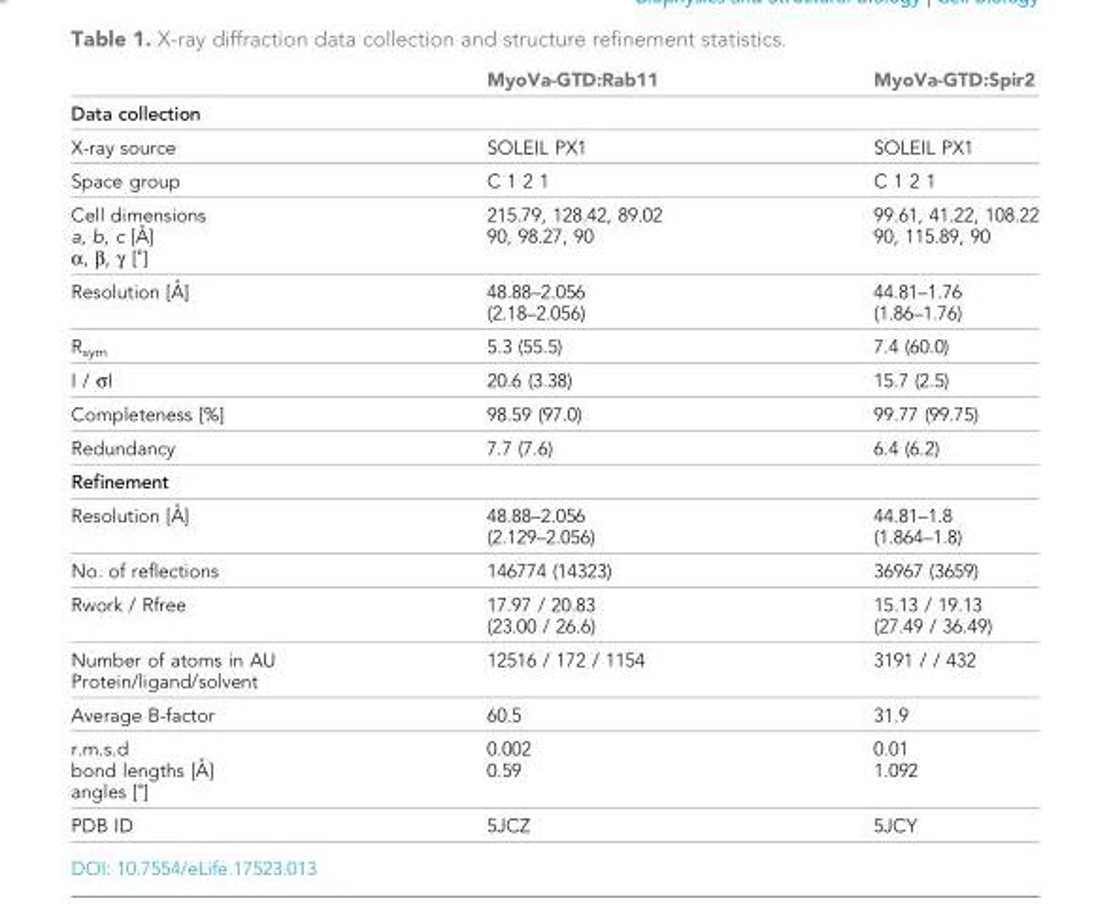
<table><thead><tr><td></td><td>MyoVa-GTD:Rab11</td><td>MyoVa-GTD:Spir2</td></tr></thead><tbody><tr><td colspan="3">Data collection</td></tr><tr><td>X-ray source</td><td>SOLEIL PX1</td><td>SOLEIL PX1</td></tr><tr><td>Space group</td><td>C 1 2 1</td><td>C 1 2 1</td></tr><tr><td>Cell dimensions a, b, c [A˚ ] a, b, g [˚]</td><td>215.79, 128.42, 89.02 90, 98.27, 90</td><td>99.61, 41.22, 108.22 90, 115.89, 90</td></tr><tr><td>Resolution [A˚ ]</td><td>48.88–2.056 (2.18–2.056)</td><td>44.81–1.76 (1.86–1.76)</td></tr><tr><td>R<sub>sym</sub></td><td>5.3 (55.5)</td><td>7.4 (60.0)</td></tr><tr><td>I / σI</td><td>20.6 (3.38)</td><td>15.7 (2.5)</td></tr><tr><td>Completeness [%]</td><td>98.59 (97.0)</td><td>99.77 (99.75)</td></tr><tr><td>Redundancy</td><td>7.7 (7.6)</td><td>6.4 (6.2)</td></tr><tr><td colspan="3">Refinement</td></tr><tr><td>Resolution [A˚ ]</td><td>48.88–2.056 (2.129–2.056)</td><td>44.81–1.8 (1.864–1.8)</td></tr><tr><td>No. of reflections</td><td>146774 (14323)</td><td>36967 (3659)</td></tr><tr><td>Rwork / Rfree</td><td>17.97 / 20.83 (23.00 / 26.6)</td><td>15.13 / 19.13 (27.49 / 36.49)</td></tr><tr><td>Number of atoms in AU Protein/ligand/solvent</td><td>12516 / 172 / 1154</td><td>3191 / / 432</td></tr><tr><td>Average B-factor</td><td>60.5</td><td>31.9</td></tr><tr><td>r.m.s.d bond lengths [A˚ ] angles [˚]</td><td>0.002 0.59</td><td>0.01 1.092</td></tr><tr><td>PDB ID</td><td>5JCZ</td><td>5JCY</td></tr></tbody></table>